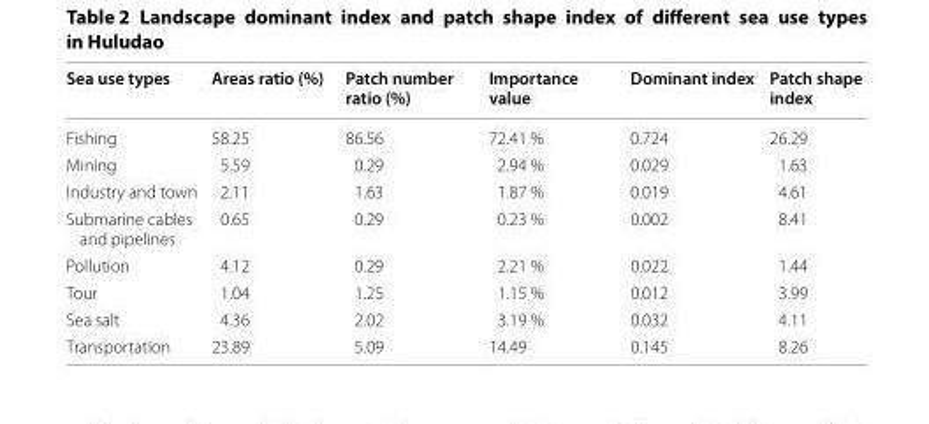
<table><thead><tr><td>Sea use types</td><td>Areas ratio (%)</td><td>Patch number ratio (%)</td><td>Importance value</td><td>Dominant index</td><td>Patch shape index</td></tr></thead><tbody><tr><td>Fishing</td><td>58.25</td><td>86.56</td><td>72.41 %</td><td>0.724</td><td>26.29</td></tr><tr><td>Mining</td><td>5.59</td><td>0.29</td><td>2.94 %</td><td>0.029</td><td>1.63</td></tr><tr><td>Industry and town</td><td>2.11</td><td>1.63</td><td>1.87 %</td><td>0.019</td><td>4.61</td></tr><tr><td>Submarine cables and pipelines</td><td>0.65</td><td>0.29</td><td>0.23 %</td><td>0.002</td><td>8.41</td></tr><tr><td>Pollution</td><td>4.12</td><td>0.29</td><td>2.21 %</td><td>0.022</td><td>1.44</td></tr><tr><td>Tour</td><td>1.04</td><td>1.25</td><td>1.15 %</td><td>0.012</td><td>3.99</td></tr><tr><td>Sea salt</td><td>4.36</td><td>2.02</td><td>3.19 %</td><td>0.032</td><td>4.11</td></tr><tr><td>Transportation</td><td>23.89</td><td>5.09</td><td>14.49</td><td>0.145</td><td>8.26</td></tr></tbody></table>